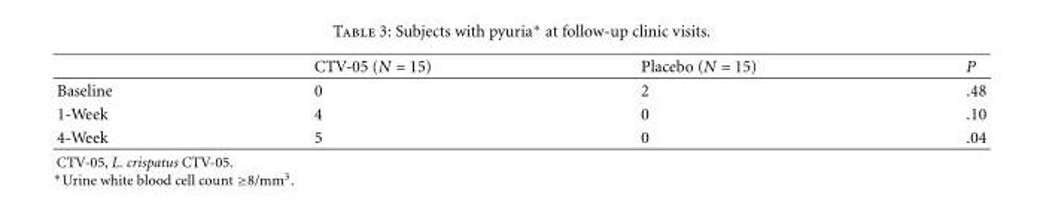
<table><thead><tr><td></td><td>CTV-05 (N = 15)</td><td>Placebo (N = 15)</td><td>P</td></tr></thead><tbody><tr><td>Baseline</td><td>0</td><td>2</td><td>.48</td></tr><tr><td>1-Week</td><td>4</td><td>0</td><td>.10</td></tr><tr><td>4-Week</td><td>5</td><td>0</td><td>.04</td></tr></tbody></table>